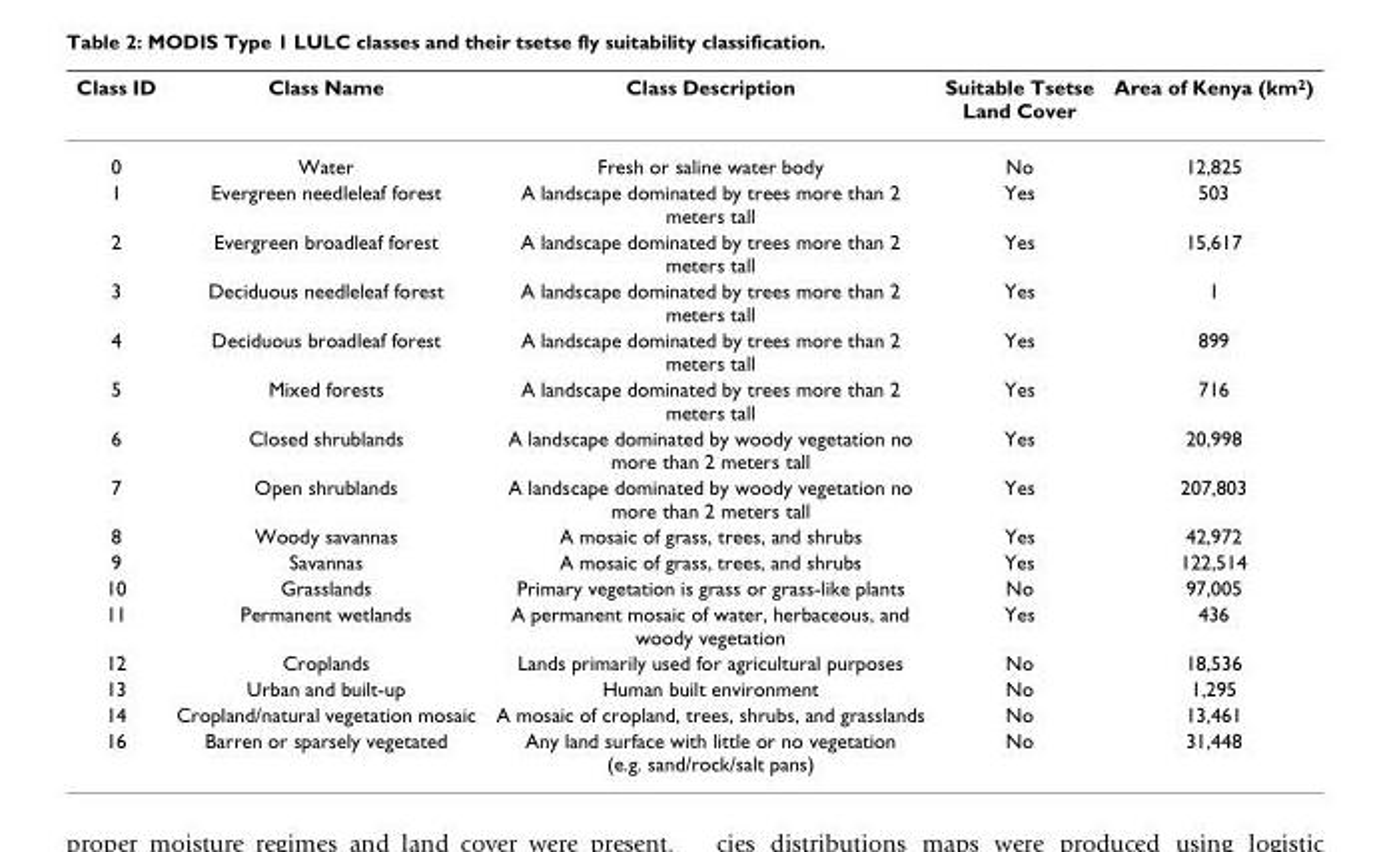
<table><thead><tr><td>Class ID</td><td>Class Name</td><td>Class Description</td><td>Suitable Tsetse Land Cover</td><td>Area of Kenya (km<sup>2</sup>)</td></tr></thead><tbody><tr><td>0</td><td>Water</td><td>Fresh or saline water body</td><td>No</td><td>12,825</td></tr><tr><td>1</td><td>Evergreen needleleaf forest</td><td>A landscape dominated by trees more than 2 meters tall</td><td>Yes</td><td>503</td></tr><tr><td>2</td><td>Evergreen broadleaf forest</td><td>A landscape dominated by trees more than 2 meters tall</td><td>Yes</td><td>15,617</td></tr><tr><td>3</td><td>Deciduous needleleaf forest</td><td>A landscape dominated by trees more than 2 meters tall</td><td>Yes</td><td>1</td></tr><tr><td>4</td><td>Deciduous broadleaf forest</td><td>A landscape dominated by trees more than 2 meters tall</td><td>Yes</td><td>899</td></tr><tr><td>5</td><td>Mixed forests</td><td>A landscape dominated by trees more than 2 meters tall</td><td>Yes</td><td>716</td></tr><tr><td>6</td><td>Closed shrublands</td><td>A landscape dominated by woody vegetation no more than 2 meters tall</td><td>Yes</td><td>20,998</td></tr><tr><td>7</td><td>Open shrublands</td><td>A landscape dominated by woody vegetation no more than 2 meters tall</td><td>Yes</td><td>207,803</td></tr><tr><td>8</td><td>Woody savannas</td><td>A mosaic of grass, trees, and shrubs</td><td>Yes</td><td>42,972</td></tr><tr><td>9</td><td>Savannas</td><td>A mosaic of grass, trees, and shrubs</td><td>Yes</td><td>122,514</td></tr><tr><td>10</td><td>Grasslands</td><td>Primary vegetation is grass or grass-like plants</td><td>No</td><td>97,005</td></tr><tr><td>11</td><td>Permanent wetlands</td><td>A permanent mosaic of water, herbaceous, and woody vegetation</td><td>Yes</td><td>436</td></tr><tr><td>12</td><td>Croplands</td><td>Lands primarily used for agricultural purposes</td><td>No</td><td>18,536</td></tr><tr><td>13</td><td>Urban and built-up</td><td>Human built environment</td><td>No</td><td>1,295</td></tr><tr><td>14</td><td>Cropland/natural vegetation mosaic</td><td>A mosaic of cropland, trees, shrubs, and grasslands</td><td>No</td><td>13,461</td></tr><tr><td>16</td><td>Barren or sparsely vegetated</td><td>Any land surface with little or no vegetation (e.g. sand/rock/salt pans)</td><td>No</td><td>31,448</td></tr></tbody></table>